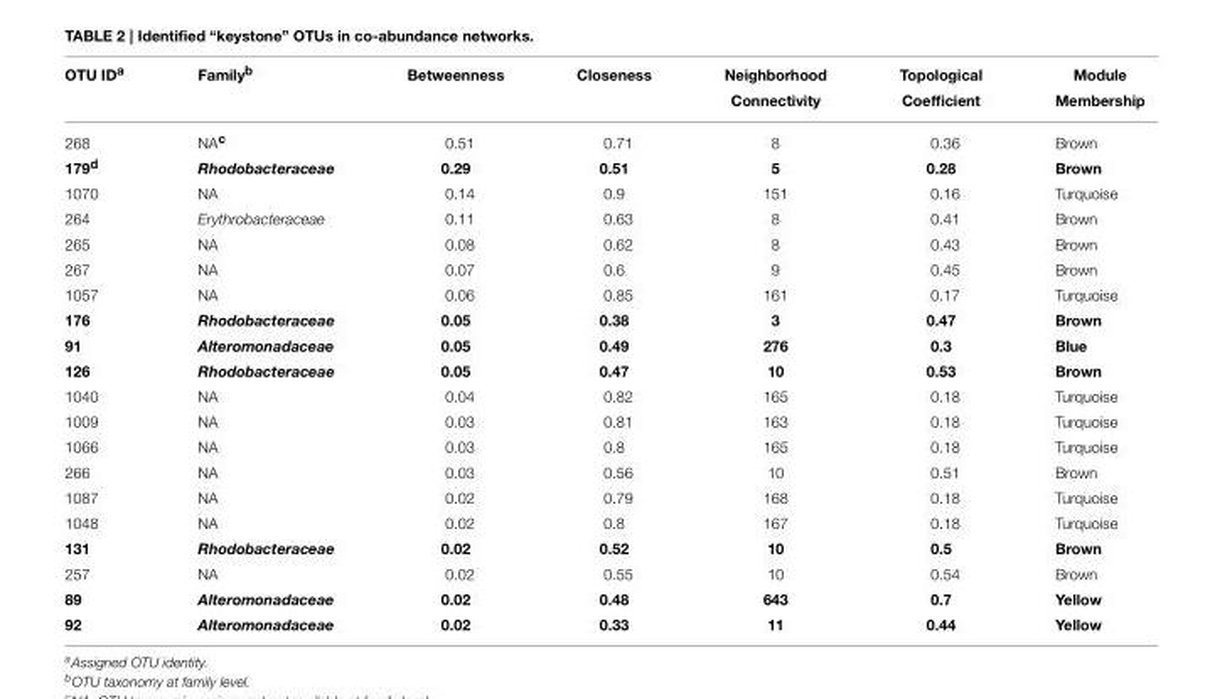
<table><thead><tr><td>OTU ID<sup>a</sup></td><td>Family<sup>b</sup></td><td>Betweenness</td><td>Closeness</td><td>Neighborhood Connectivity</td><td>Topological Coefficient</td><td>Module Membership</td></tr></thead><tbody><tr><td>268</td><td>NA<sup>c</sup></td><td>0.51</td><td>0.71</td><td>8</td><td>0.36</td><td>Brown</td></tr><tr><td>179<sup>d</sup></td><td>Rhodobacteraceae</td><td>0.29</td><td>0.51</td><td>5</td><td>0.28</td><td>Brown</td></tr><tr><td>1070</td><td>NA</td><td>0.14</td><td>0.9</td><td>151</td><td>0.16</td><td>Turquoise</td></tr><tr><td>264</td><td>Erythrobacteraceae</td><td>0.11</td><td>0.63</td><td>8</td><td>0.41</td><td>Brown</td></tr><tr><td>265</td><td>NA</td><td>0.08</td><td>0.62</td><td>8</td><td>0.43</td><td>Brown</td></tr><tr><td>267</td><td>NA</td><td>0.07</td><td>0.6</td><td>9</td><td>0.45</td><td>Brown</td></tr><tr><td>1057</td><td>NA</td><td>0.06</td><td>0.85</td><td>161</td><td>0.17</td><td>Turquoise</td></tr><tr><td>176</td><td>Rhodobacteraceae</td><td>0.05</td><td>0.38</td><td>3</td><td>0.47</td><td>Brown</td></tr><tr><td>91</td><td>Alteromonadaceae</td><td>0.05</td><td>0.49</td><td>276</td><td>0.3</td><td>Blue</td></tr><tr><td>126</td><td>Rhodobacteraceae</td><td>0.05</td><td>0.47</td><td>10</td><td>0.53</td><td>Brown</td></tr><tr><td>1040</td><td>NA</td><td>0.04</td><td>0.82</td><td>165</td><td>0.18</td><td>Turquoise</td></tr><tr><td>1009</td><td>NA</td><td>0.03</td><td>0.81</td><td>163</td><td>0.18</td><td>Turquoise</td></tr><tr><td>1066</td><td>NA</td><td>0.03</td><td>0.8</td><td>165</td><td>0.18</td><td>Turquoise</td></tr><tr><td>266</td><td>NA</td><td>0.03</td><td>0.56</td><td>10</td><td>0.51</td><td>Brown</td></tr><tr><td>1087</td><td>NA</td><td>0.02</td><td>0.79</td><td>168</td><td>0.18</td><td>Turquoise</td></tr><tr><td>1048</td><td>NA</td><td>0.02</td><td>0.8</td><td>167</td><td>0.18</td><td>Turquoise</td></tr><tr><td>131</td><td>Rhodobacteraceae</td><td>0.02</td><td>0.52</td><td>10</td><td>0.5</td><td>Brown</td></tr><tr><td>257</td><td>NA</td><td>0.02</td><td>0.55</td><td>10</td><td>0.54</td><td>Brown</td></tr><tr><td>89</td><td>Alteromonadaceae</td><td>0.02</td><td>0.48</td><td>643</td><td>0.7</td><td>Yellow</td></tr><tr><td>92</td><td>Alteromonadaceae</td><td>0.02</td><td>0.33</td><td>11</td><td>0.44</td><td>Yellow</td></tr></tbody></table>